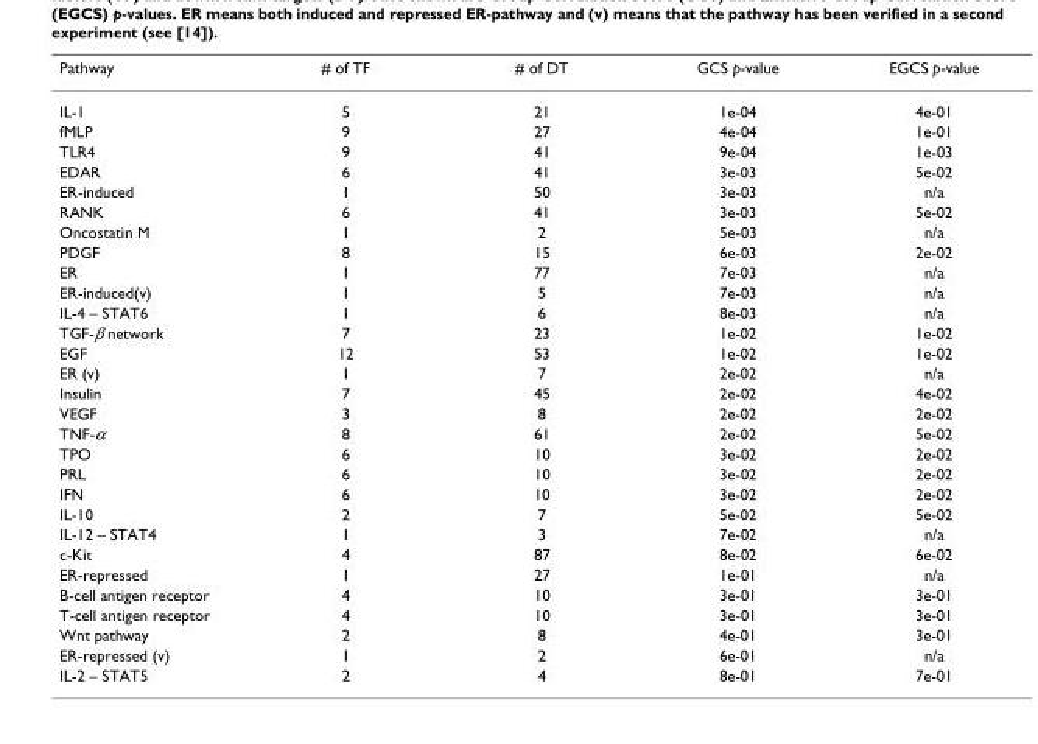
<table><thead><tr><td>Pathway</td><td># of TF</td><td># of DT</td><td>GCS p-value</td><td>EGCS p-value</td></tr></thead><tbody><tr><td>IL-1</td><td>5</td><td>21</td><td>1e-04</td><td>4e-01</td></tr><tr><td>fMLP</td><td>9</td><td>27</td><td>4e-04</td><td>1e-01</td></tr><tr><td>TLR4</td><td>9</td><td>41</td><td>9e-04</td><td>1e-03</td></tr><tr><td>EDAR</td><td>6</td><td>41</td><td>3e-03</td><td>5e-02</td></tr><tr><td>ER-induced</td><td>1</td><td>50</td><td>3e-03</td><td>n/a</td></tr><tr><td>RANK</td><td>6</td><td>41</td><td>3e-03</td><td>5e-02</td></tr><tr><td>Oncostatin M</td><td>1</td><td>2</td><td>5e-03</td><td>n/a</td></tr><tr><td>PDGF</td><td>8</td><td>15</td><td>6e-03</td><td>2e-02</td></tr><tr><td>ER</td><td>1</td><td>77</td><td>7e-03</td><td>n/a</td></tr><tr><td>ER-induced(v)</td><td>1</td><td>5</td><td>7e-03</td><td>n/a</td></tr><tr><td>IL-4 – STAT6</td><td>1</td><td>6</td><td>8e-03</td><td>n/a</td></tr><tr><td>TGF-β network</td><td>7</td><td>23</td><td>1e-02</td><td>1e-02</td></tr><tr><td>EGF</td><td>12</td><td>53</td><td>1e-02</td><td>1e-02</td></tr><tr><td>ER (v)</td><td>1</td><td>7</td><td>2e-02</td><td>n/a</td></tr><tr><td>Insulin</td><td>7</td><td>45</td><td>2e-02</td><td>4e-02</td></tr><tr><td>VEGF</td><td>3</td><td>8</td><td>2e-02</td><td>2e-02</td></tr><tr><td>TNF-α</td><td>8</td><td>61</td><td>2e-02</td><td>5e-02</td></tr><tr><td>TPO</td><td>6</td><td>10</td><td>3e-02</td><td>2e-02</td></tr><tr><td>PRL</td><td>6</td><td>10</td><td>3e-02</td><td>2e-02</td></tr><tr><td>IFN</td><td>6</td><td>10</td><td>3e-02</td><td>2e-02</td></tr><tr><td>IL-10</td><td>2</td><td>7</td><td>5e-02</td><td>5e-02</td></tr><tr><td>IL-12 – STAT4</td><td>1</td><td>3</td><td>7e-02</td><td>n/a</td></tr><tr><td>c-Kit</td><td>4</td><td>87</td><td>8e-02</td><td>6e-02</td></tr><tr><td>ER-repressed</td><td>1</td><td>27</td><td>1e-01</td><td>n/a</td></tr><tr><td>B-cell antigen receptor</td><td>4</td><td>10</td><td>3e-01</td><td>3e-01</td></tr><tr><td>T-cell antigen receptor</td><td>4</td><td>10</td><td>3e-01</td><td>3e-01</td></tr><tr><td>Wnt pathway</td><td>2</td><td>8</td><td>4e-01</td><td>3e-01</td></tr><tr><td>ER-repressed (v)</td><td>1</td><td>2</td><td>6e-01</td><td>n/a</td></tr><tr><td>IL-2 – STAT5</td><td>2</td><td>4</td><td>8e-01</td><td>7e-01</td></tr></tbody></table>